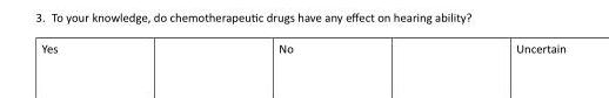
<table><tbody><tr><td>Yes</td><td>No</td><td>Uncertain</td></tr></tbody></table>